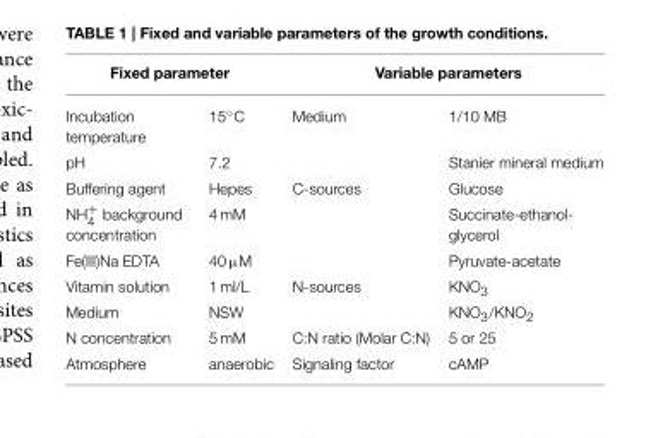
<table><thead><tr><td colspan="2">Fixed parameter</td><td colspan="2">Variable parameters</td></tr><tr><td>Incubation temperature</td><td>15◦C</td><td>Medium</td><td>1/10 MB</td></tr></thead><tbody><tr><td>pH</td><td>7.2</td><td></td><td>Stanier mineral medium</td></tr><tr><td>Buffering agent</td><td>Hepes</td><td>C-sources</td><td>Glucose</td></tr><tr><td>NH<sup>+</sup> <sub>4</sub> background concentration</td><td>4 mM</td><td></td><td>Succinate-ethanol- glycerol</td></tr><tr><td>Fe(III)Na EDTA</td><td>40 µM</td><td></td><td>Pyruvate-acetate</td></tr><tr><td>Vitamin solution</td><td>1 ml/L</td><td>N-sources</td><td>KNO<sub>3</sub></td></tr><tr><td>Medium</td><td>NSW</td><td></td><td>KNO<sub>3</sub>/KNO<sub>2</sub></td></tr><tr><td>N concentration</td><td>5 mM</td><td>C:N ratio (Molar C:N)</td><td>5 or 25</td></tr><tr><td>Atmosphere</td><td>anaerobic</td><td>Signaling factor</td><td>cAMP</td></tr></tbody></table>